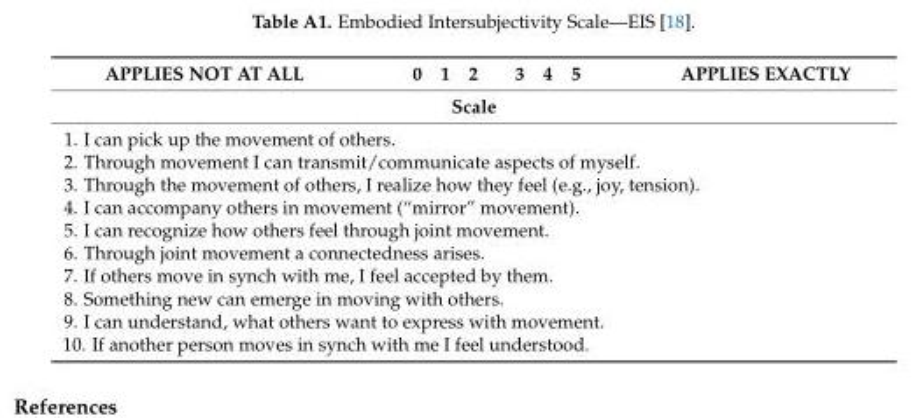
<table><thead><tr><td>APPLIES NOT AT ALL</td><td>0 1 2 3 4 5</td><td>APPLIES EXACTLY</td></tr><tr><td colspan="3">Scale</td></tr></thead><tbody><tr><td colspan="3">1. I can pick up the movement of others. 2. Through movement I can transmit/communicate aspects of myself. 3. Through the movement of others, I realize how they feel (e.g., joy, tension). 4. I can accompany others in movement (“mirror” movement). 5. I can recognize how others feel through joint movement. 6. Through joint movement a connectedness arises. 7. If others move in synch with me, I feel accepted by them. 8. Something new can emerge in moving with others. 9. I can understand, what others want to express with movement. 10. If another person moves in synch with me I feel understood.</td></tr></tbody></table>